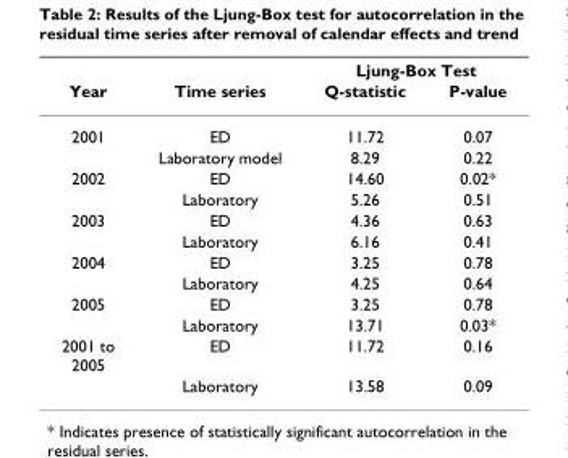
<table><thead><tr><td rowspan="2">Year</td><td rowspan="2">Time series</td><td colspan="2">Ljung-Box Test</td></tr><tr><td>Q-statistic</td><td>P-value</td></tr></thead><tbody><tr><td rowspan="2">2001</td><td>ED</td><td>11.72</td><td>0.07</td></tr><tr><td>Laboratory model</td><td>8.29</td><td>0.22</td></tr><tr><td rowspan="2">2002</td><td>ED</td><td>14.60</td><td>0.02*</td></tr><tr><td>Laboratory</td><td>5.26</td><td>0.51</td></tr><tr><td rowspan="2">2003</td><td>ED</td><td>4.36</td><td>0.63</td></tr><tr><td>Laboratory</td><td>6.16</td><td>0.41</td></tr><tr><td rowspan="2">2004</td><td>ED</td><td>3.25</td><td>0.78</td></tr><tr><td>Laboratory</td><td>4.25</td><td>0.64</td></tr><tr><td rowspan="2">2005</td><td>ED</td><td>3.25</td><td>0.78</td></tr><tr><td>Laboratory</td><td>13.71</td><td>0.03*</td></tr><tr><td rowspan="2">2001 to 2005</td><td>ED</td><td>11.72</td><td>0.16</td></tr><tr><td>Laboratory</td><td>13.58</td><td>0.09</td></tr></tbody></table>